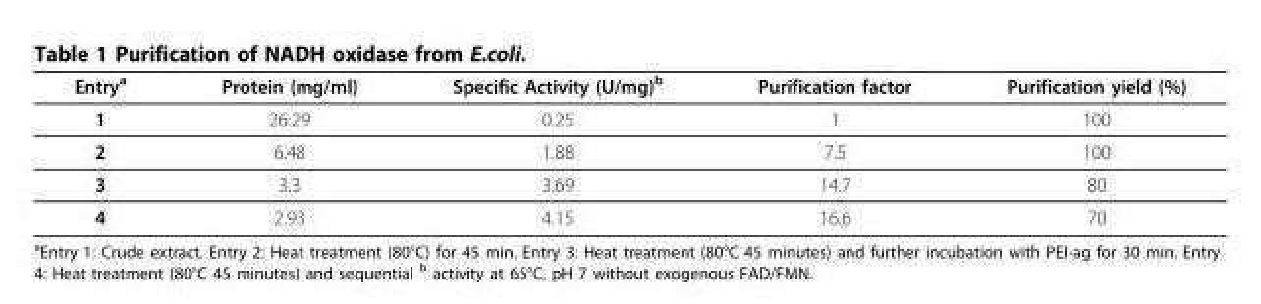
<table><thead><tr><td>Entry<sup>a</sup></td><td>Protein (mg/ml)</td><td>Specific Activity (U/mg)<sup>b</sup></td><td>Purification factor</td><td>Purification yield (%)</td></tr></thead><tbody><tr><td>1</td><td>26.29</td><td>0.25</td><td>1</td><td>100</td></tr><tr><td>2</td><td>6.48</td><td>1.88</td><td>7.5</td><td>100</td></tr><tr><td>3</td><td>3.3</td><td>3.69</td><td>14.7</td><td>80</td></tr><tr><td>4</td><td>2.93</td><td>4.15</td><td>16.6</td><td>70</td></tr></tbody></table>